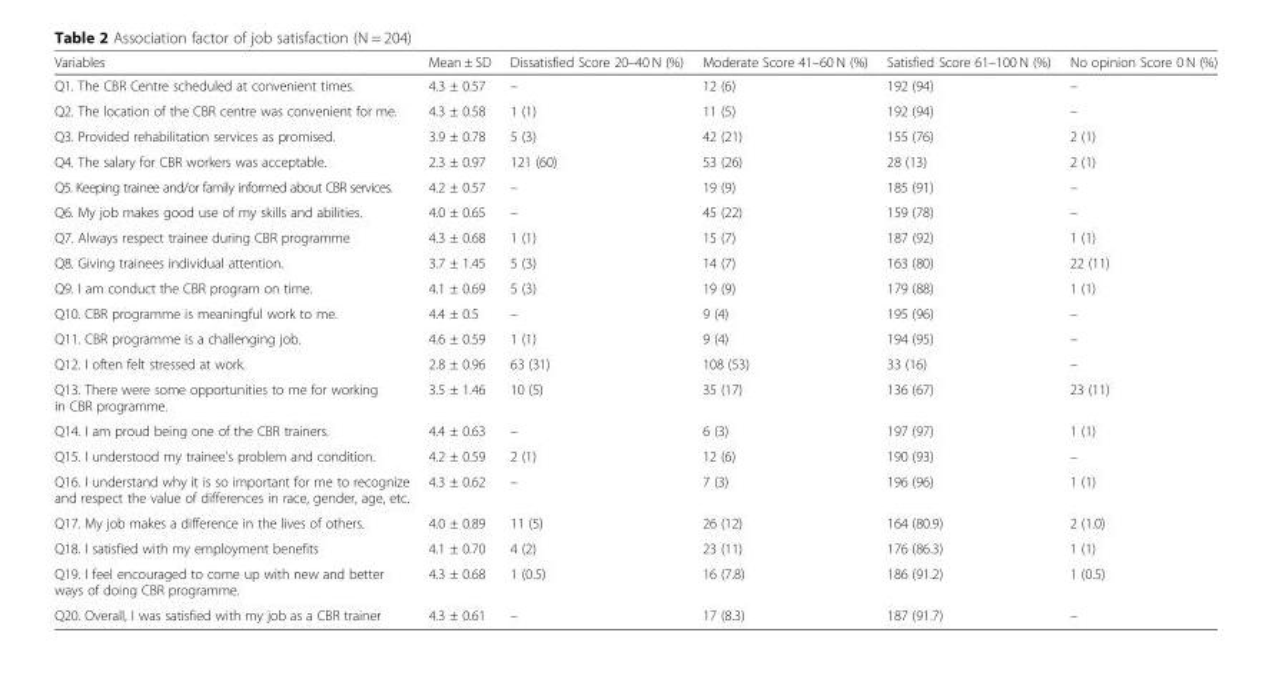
<table><thead><tr><td>Variables</td><td>Mean ± SD</td><td>Dissatisfied Score 20–40 N (%)</td><td>Moderate Score 41–60 N (%)</td><td>Satisfied Score 61–100 N (%)</td><td>No opinion Score 0 N (%)</td></tr></thead><tbody><tr><td>Q1. The CBR Centre scheduled at convenient times.</td><td>4.3 ± 0.57</td><td>–</td><td>12 (6)</td><td>192 (94)</td><td>–</td></tr><tr><td>Q2. The location of the CBR centre was convenient for me.</td><td>4.3 ± 0.58</td><td>1 (1)</td><td>11 (5)</td><td>192 (94)</td><td>–</td></tr><tr><td>Q3. Provided rehabilitation services as promised.</td><td>3.9 ± 0.78</td><td>5 (3)</td><td>42 (21)</td><td>155 (76)</td><td>2 (1)</td></tr><tr><td>Q4. The salary for CBR workers was acceptable.</td><td>2.3 ± 0.97</td><td>121 (60)</td><td>53 (26)</td><td>28 (13)</td><td>2 (1)</td></tr><tr><td>Q5. Keeping trainee and/or family informed about CBR services.</td><td>4.2 ± 0.57</td><td>–</td><td>19 (9)</td><td>185 (91)</td><td>–</td></tr><tr><td>Q6. My job makes good use of my skills and abilities.</td><td>4.0 ± 0.65</td><td>–</td><td>45 (22)</td><td>159 (78)</td><td>–</td></tr><tr><td>Q7. Always respect trainee during CBR programme</td><td>4.3 ± 0.68</td><td>1 (1)</td><td>15 (7)</td><td>187 (92)</td><td>1 (1)</td></tr><tr><td>Q8. Giving trainees individual attention.</td><td>3.7 ± 1.45</td><td>5 (3)</td><td>14 (7)</td><td>163 (80)</td><td>22 (11)</td></tr><tr><td>Q9. I am conduct the CBR program on time.</td><td>4.1 ± 0.69</td><td>5 (3)</td><td>19 (9)</td><td>179 (88)</td><td>1 (1)</td></tr><tr><td>Q10. CBR programme is meaningful work to me.</td><td>4.4 ± 0.5</td><td>–</td><td>9 (4)</td><td>195 (96)</td><td>–</td></tr><tr><td>Q11. CBR programme is a challenging job.</td><td>4.6 ± 0.59</td><td>1 (1)</td><td>9 (4)</td><td>194 (95)</td><td>–</td></tr><tr><td>Q12. I often felt stressed at work.</td><td>2.8 ± 0.96</td><td>63 (31)</td><td>108 (53)</td><td>33 (16)</td><td>–</td></tr><tr><td>Q13. There were some opportunities to me for working in CBR programme.</td><td>3.5 ± 1.46</td><td>10 (5)</td><td>35 (17)</td><td>136 (67)</td><td>23 (11)</td></tr><tr><td>Q14. I am proud being one of the CBR trainers.</td><td>4.4 ± 0.63</td><td>–</td><td>6 (3)</td><td>197 (97)</td><td>1 (1)</td></tr><tr><td>Q15. I understood my trainee’s problem and condition.</td><td>4.2 ± 0.59</td><td>2 (1)</td><td>12 (6)</td><td>190 (93)</td><td>–</td></tr><tr><td>Q16. I understand why it is so important for me to recognize and respect the value of differences in race, gender, age, etc.</td><td>4.3 ± 0.62</td><td>–</td><td>7 (3)</td><td>196 (96)</td><td>1 (1)</td></tr><tr><td>Q17. My job makes a difference in the lives of others.</td><td>4.0 ± 0.89</td><td>11 (5)</td><td>26 (12)</td><td>164 (80.9)</td><td>2 (1.0)</td></tr><tr><td>Q18. I satisfied with my employment benefits</td><td>4.1 ± 0.70</td><td>4 (2)</td><td>23 (11)</td><td>176 (86.3)</td><td>1 (1)</td></tr><tr><td>Q19. I feel encouraged to come up with new and better ways of doing CBR programme.</td><td>4.3 ± 0.68</td><td>1 (0.5)</td><td>16 (7.8)</td><td>186 (91.2)</td><td>1 (0.5)</td></tr><tr><td>Q20. Overall, I was satisfied with my job as a CBR trainer</td><td>4.3 ± 0.61</td><td>–</td><td>17 (8.3)</td><td>187 (91.7)</td><td>–</td></tr></tbody></table>